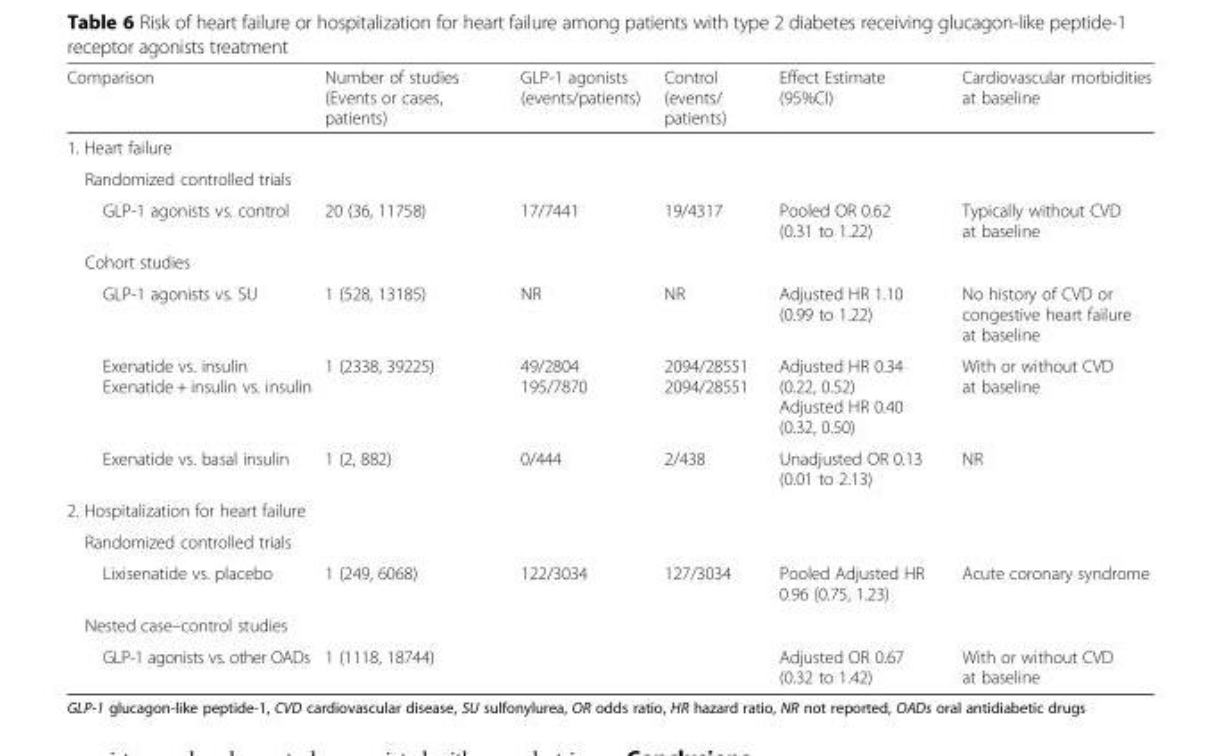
<table><thead><tr><td>Comparison</td><td>Number of studies (Events or cases, patients)</td><td>GLP-1 agonists (events/patients)</td><td>Control (events/ patients)</td><td>Effect Estimate (95%CI)</td><td>Cardiovascular morbidities at baseline</td></tr></thead><tbody><tr><td colspan="6">1. Heart failure</td></tr><tr><td colspan="6">Randomized controlled trials</td></tr><tr><td>GLP-1 agonists vs. control</td><td>20 (36, 11758)</td><td>17/7441</td><td>19/4317</td><td>Pooled OR 0.62 (0.31 to 1.22)</td><td>Typically without CVD at baseline</td></tr><tr><td colspan="6">Cohort studies</td></tr><tr><td>GLP-1 agonists vs. SU</td><td>1 (528, 13185)</td><td>NR</td><td>NR</td><td>Adjusted HR 1.10 (0.99 to 1.22)</td><td>No history of CVD or congestive heart failure at baseline</td></tr><tr><td>Exenatide vs. insulin Exenatide + insulin vs. insulin</td><td>1 (2338, 39225)</td><td>49/2804 195/7870</td><td>2094/28551 2094/28551</td><td>Adjusted HR 0.34 (0.22, 0.52) Adjusted HR 0.40 (0.32, 0.50)</td><td>With or without CVD at baseline</td></tr><tr><td>Exenatide vs. basal insulin</td><td>1 (2, 882)</td><td>0/444</td><td>2/438</td><td>Unadjusted OR 0.13 (0.01 to 2.13)</td><td>NR</td></tr><tr><td colspan="6">2. Hospitalization for heart failure</td></tr><tr><td colspan="6">Randomized controlled trials</td></tr><tr><td>Lixisenatide vs. placebo</td><td>1 (249, 6068)</td><td>122/3034</td><td>127/3034</td><td>Pooled Adjusted HR 0.96 (0.75, 1.23)</td><td>Acute coronary syndrome</td></tr><tr><td colspan="6">Nested case–control studies</td></tr><tr><td>GLP-1 agonists vs. other OADs</td><td>1 (1118, 18744)</td><td></td><td></td><td>Adjusted OR 0.67 (0.32 to 1.42)</td><td>With or without CVD at baseline</td></tr></tbody></table>